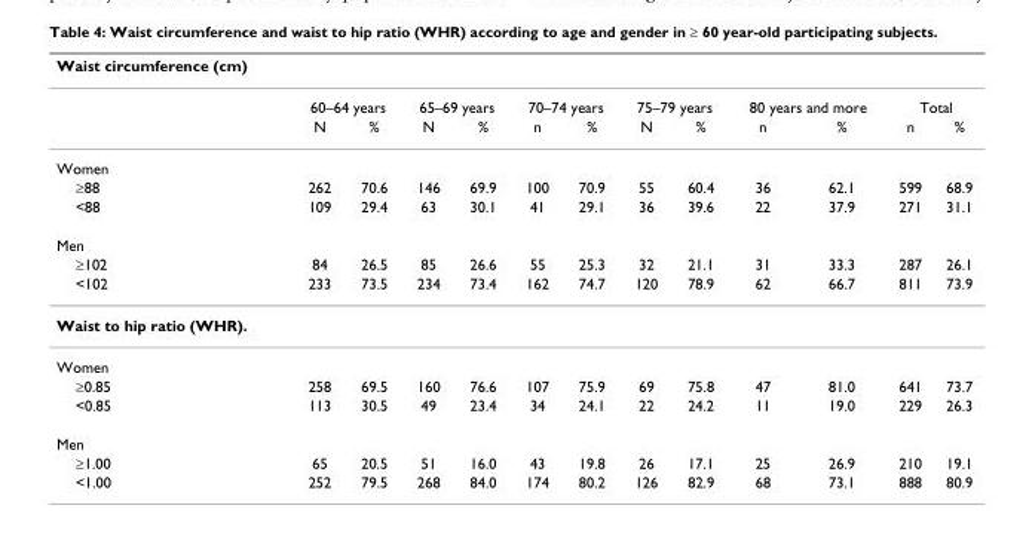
<table><thead><tr><td>Waist circumference (cm)</td><td></td><td></td><td></td><td></td><td></td><td></td><td></td><td></td><td></td><td></td><td></td><td></td></tr></thead><tbody><tr><td></td><td colspan="2">60–64 years</td><td colspan="2">65–69 years</td><td colspan="2">70–74 years</td><td colspan="2">75–79 years</td><td colspan="2">80 years and more</td><td colspan="2">Total</td></tr><tr><td></td><td>N</td><td>%</td><td>N</td><td>%</td><td>n</td><td>%</td><td>N</td><td>%</td><td>n</td><td>%</td><td>n</td><td>%</td></tr><tr><td colspan="13">Women</td></tr><tr><td>≥88</td><td>262</td><td>70.6</td><td>146</td><td>69.9</td><td>100</td><td>70.9</td><td>55</td><td>60.4</td><td>36</td><td>62.1</td><td>599</td><td>68.9</td></tr><tr><td>&lt;88</td><td>109</td><td>29.4</td><td>63</td><td>30.1</td><td>41</td><td>29.1</td><td>36</td><td>39.6</td><td>22</td><td>37.9</td><td>271</td><td>31.1</td></tr><tr><td colspan="13">Men</td></tr><tr><td>≥102</td><td>84</td><td>26.5</td><td>85</td><td>26.6</td><td>55</td><td>25.3</td><td>32</td><td>21.1</td><td>31</td><td>33.3</td><td>287</td><td>26.1</td></tr><tr><td>&lt;102</td><td>233</td><td>73.5</td><td>234</td><td>73.4</td><td>162</td><td>74.7</td><td>120</td><td>78.9</td><td>62</td><td>66.7</td><td>811</td><td>73.9</td></tr><tr><td colspan="13">Waist to hip ratio (WHR).</td></tr><tr><td colspan="13">Women</td></tr><tr><td>≥0.85</td><td>258</td><td>69.5</td><td>160</td><td>76.6</td><td>107</td><td>75.9</td><td>69</td><td>75.8</td><td>47</td><td>81.0</td><td>641</td><td>73.7</td></tr><tr><td>&lt;0.85</td><td>113</td><td>30.5</td><td>49</td><td>23.4</td><td>34</td><td>24.1</td><td>22</td><td>24.2</td><td>11</td><td>19.0</td><td>229</td><td>26.3</td></tr><tr><td colspan="13">Men</td></tr><tr><td>≥1.00</td><td>65</td><td>20.5</td><td>51</td><td>16.0</td><td>43</td><td>19.8</td><td>26</td><td>17.1</td><td>25</td><td>26.9</td><td>210</td><td>19.1</td></tr><tr><td>&lt;1.00</td><td>252</td><td>79.5</td><td>268</td><td>84.0</td><td>174</td><td>80.2</td><td>126</td><td>82.9</td><td>68</td><td>73.1</td><td>888</td><td>80.9</td></tr></tbody></table>